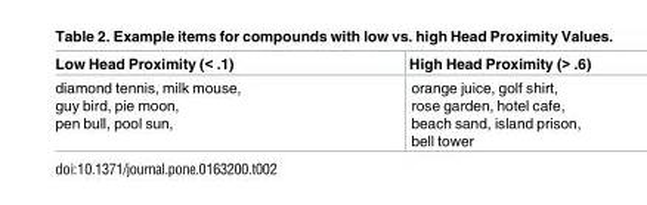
<table><thead><tr><td>Low Head Proximity (&lt; .1)</td><td>High Head Proximity (&gt; .6)</td></tr></thead><tbody><tr><td>diamond tennis, milk mouse, guy bird, pie moon, pen bull, pool sun,</td><td>orange juice, golf shirt, rose garden, hotel cafe, beach sand, island prison, bell tower</td></tr></tbody></table>